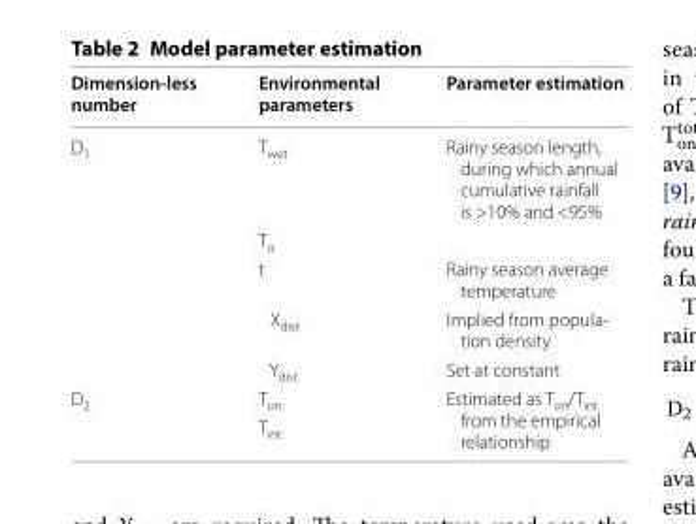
<table><thead><tr><td>Dimension-less number</td><td>Environmental parameters</td><td>Parameter estimation</td></tr></thead><tbody><tr><td rowspan="5">D<sub>1</sub></td><td>T<sub>wet</sub></td><td>Rainy season length, during which annual cumulative rainfall is &gt;10% and &lt;95%</td></tr><tr><td colspan="2">T<sub>o</sub></td></tr><tr><td>t</td><td>Rainy season average temperature</td></tr><tr><td>X<sub>dist</sub></td><td>Implied from popula- tion density</td></tr><tr><td>Y<sub>dist</sub></td><td>Set at constant</td></tr><tr><td rowspan="2">D<sub>2</sub></td><td>T<sub>on</sub></td><td rowspan="2">Estimated as T<sub>on</sub>/T<sub>int</sub> from the empirical relationship</td></tr><tr><td>T<sub>int</sub></td></tr></tbody></table>